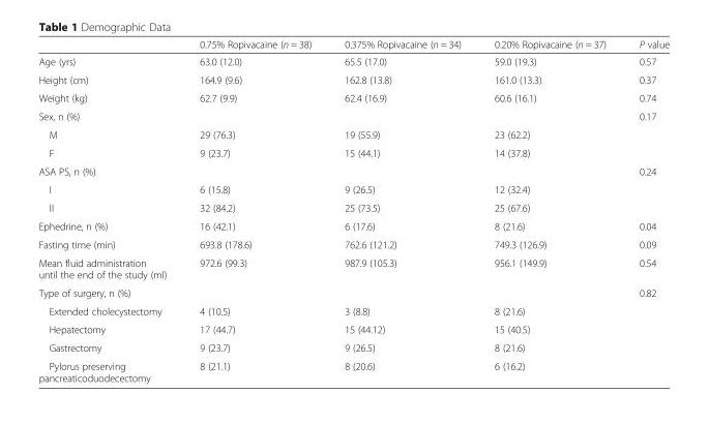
<table><thead><tr><td></td><td>0.75% Ropivacaine (n = 38)</td><td>0.375% Ropivacaine (n = 34)</td><td>0.20% Ropivacaine (n = 37)</td><td>P value</td></tr></thead><tbody><tr><td>Age (yrs)</td><td>63.0 (12.0)</td><td>65.5 (17.0)</td><td>59.0 (19.3)</td><td>0.57</td></tr><tr><td>Height (cm)</td><td>164.9 (9.6)</td><td>162.8 (13.8)</td><td>161.0 (13.3)</td><td>0.37</td></tr><tr><td>Weight (kg)</td><td>62.7 (9.9)</td><td>62.4 (16.9)</td><td>60.6 (16.1)</td><td>0.74</td></tr><tr><td colspan="4">Sex, n (%)</td><td>0.17</td></tr><tr><td>M</td><td>29 (76.3)</td><td>19 (55.9)</td><td>23 (62.2)</td><td></td></tr><tr><td>F</td><td>9 (23.7)</td><td>15 (44.1)</td><td>14 (37.8)</td><td></td></tr><tr><td colspan="4">ASA PS, n (%)</td><td>0.24</td></tr><tr><td>I</td><td>6 (15.8)</td><td>9 (26.5)</td><td>12 (32.4)</td><td></td></tr><tr><td>II</td><td>32 (84.2)</td><td>25 (73.5)</td><td>25 (67.6)</td><td></td></tr><tr><td>Ephedrine, n (%)</td><td>16 (42.1)</td><td>6 (17.6)</td><td>8 (21.6)</td><td>0.04</td></tr><tr><td>Fasting time (min)</td><td>693.8 (178.6)</td><td>762.6 (121.2)</td><td>749.3 (126.9)</td><td>0.09</td></tr><tr><td>Mean fluid administration until the end of the study (ml)</td><td>972.6 (99.3)</td><td>987.9 (105.3)</td><td>956.1 (149.9)</td><td>0.54</td></tr><tr><td colspan="4">Type of surgery, n (%)</td><td>0.82</td></tr><tr><td>Extended cholecystectomy</td><td>4 (10.5)</td><td>3 (8.8)</td><td>8 (21.6)</td><td></td></tr><tr><td>Hepatectomy</td><td>17 (44.7)</td><td>15 (44.12)</td><td>15 (40.5)</td><td></td></tr><tr><td>Gastrectomy</td><td>9 (23.7)</td><td>9 (26.5)</td><td>8 (21.6)</td><td></td></tr><tr><td>Pylorus preserving pancreaticoduodecectomy</td><td>8 (21.1)</td><td>8 (20.6)</td><td>6 (16.2)</td><td></td></tr></tbody></table>